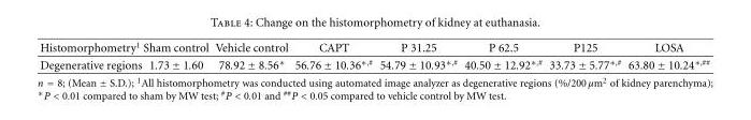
<table><thead><tr><td>Histomorphometry<sup>1</sup></td><td>Sham control</td><td>Vehicle control</td><td>CAPT</td><td>P 31.25</td><td>P 62.5</td><td>P125</td><td>LOSA</td></tr></thead><tbody><tr><td>Degenerative regions</td><td>1.73 ± 1.60</td><td>78.92 ± 8.56∗</td><td>56.76 ± 10.36<sup>∗,#</sup></td><td>54.79 ± 10.93<sup>∗,#</sup></td><td>40.50 ± 12.92<sup>∗,#</sup></td><td>33.73 ± 5.77<sup>∗,#</sup></td><td>63.80 ± 10.24<sup>∗,##</sup></td></tr></tbody></table>